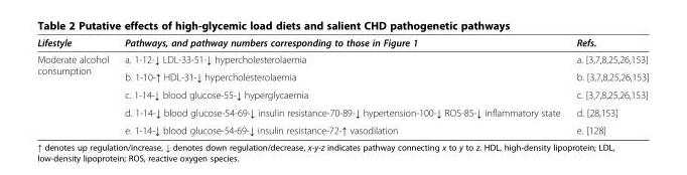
<table><thead><tr><td>Lifestyle</td><td>Pathways, and pathway numbers corresponding to those in Figure 1</td><td>Refs.</td></tr></thead><tbody><tr><td rowspan="5">Moderate alcohol consumption</td><td>a. 1-12-↓ LDL-33-51-↓ hypercholesterolaemia</td><td>a. [3,7,8,25,26,153]</td></tr><tr><td>b. 1-10-↑ HDL-31-↓ hypercholesterolaemia</td><td>b. [3,7,8,25,26,153]</td></tr><tr><td>c. 1-14-↓ blood glucose-55-↓ hyperglycaemia</td><td>c. [3,7,8,25,26,153]</td></tr><tr><td>d. 1-14-↓ blood glucose-54-69-↓ insulin resistance-70-89-↓ hypertension-100-↓ ROS-85-↓ inflammatory state</td><td>d. [28,153]</td></tr><tr><td>e. 1-14-↓ blood glucose-54-69-↓ insulin resistance-72-↑ vasodilation</td><td>e. [128]</td></tr></tbody></table>